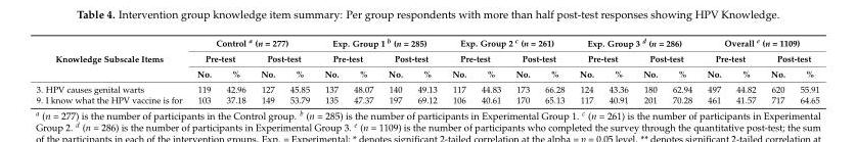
<table><thead><tr><td rowspan="3">Knowledge Subscale Items</td><td colspan="4">Control <sup>a</sup> (n = 277)</td><td colspan="4">Exp. Group 1 <sup>b</sup> (n = 285)</td><td colspan="4">Exp. Group 2 <sup>c</sup> (n = 261)</td><td colspan="4">Exp. Group 3 <sup>d</sup> (n = 286)</td><td colspan="4">Overall <sup>e</sup> (n = 1109)</td></tr><tr><td colspan="2">Pre-test</td><td colspan="2">Post-test</td><td colspan="2">Pre-test</td><td colspan="2">Post-test</td><td colspan="2">Pre-test</td><td colspan="2">Post-test</td><td colspan="2">Pre-test</td><td colspan="2">Post-test</td><td colspan="2">Pre-test</td><td colspan="2">Post-test</td></tr><tr><td>No.</td><td>%</td><td>No.</td><td>%</td><td>No.</td><td>%</td><td>No.</td><td>%</td><td>No.</td><td>%</td><td>No.</td><td>%</td><td>No.</td><td>%</td><td>No.</td><td>%</td><td>No.</td><td>%</td><td>No.</td><td>%</td></tr></thead><tbody><tr><td>3. HPV causes genital warts</td><td>119</td><td>42.96</td><td>127</td><td>45.85</td><td>137</td><td>48.07</td><td>140</td><td>49.13</td><td>117</td><td>44.83</td><td>173</td><td>66.28</td><td>124</td><td>43.36</td><td>180</td><td>62.94</td><td>497</td><td>44.82</td><td>620</td><td>55.91</td></tr><tr><td>9. I know what the HPV vaccine is for</td><td>103</td><td>37.18</td><td>149</td><td>53.79</td><td>135</td><td>47.37</td><td>197</td><td>69.12</td><td>106</td><td>40.61</td><td>170</td><td>65.13</td><td>117</td><td>40.91</td><td>201</td><td>70.28</td><td>461</td><td>41.57</td><td>717</td><td>64.65</td></tr></tbody></table>